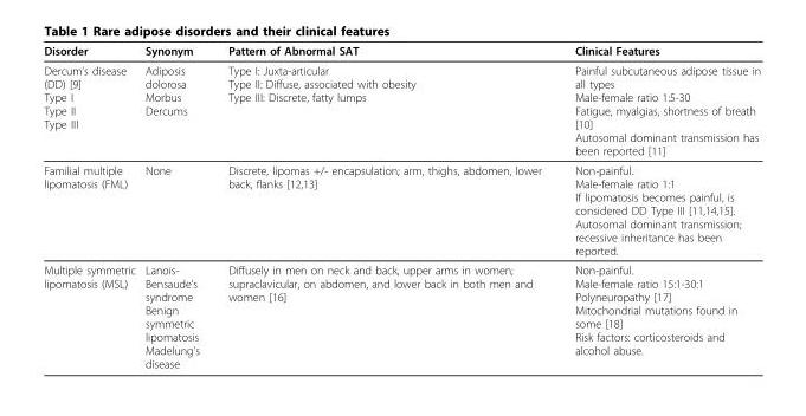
<table><thead><tr><td>Disorder</td><td>Synonym</td><td>Pattern of Abnormal SAT</td><td>Clinical Features</td></tr></thead><tbody><tr><td>Dercum’s disease (DD) [9] Type I Type II Type III</td><td>Adiposis dolorosa Morbus Dercums</td><td>Type I: Juxta-articular Type II: Diffuse, associated with obesity Type III: Discrete, fatty lumps</td><td>Painful subcutaneous adipose tissue in all types Male-female ratio 1:5-30 Fatigue, myalgias, shortness of breath [10] Autosomal dominant transmission has been reported [11]</td></tr><tr><td>Familial multiple lipomatosis (FML)</td><td>None</td><td>Discrete, lipomas +/- encapsulation; arm, thighs, abdomen, lower back, flanks [12,13]</td><td>Non-painful. Male-female ratio 1:1 If lipomatosis becomes painful, is considered DD Type III [11,14,15]. Autosomal dominant transmission; recessive inheritance has been reported.</td></tr><tr><td>Multiple symmetric lipomatosis (MSL)</td><td>Lanois- Bensaude’s syndrome Benign symmetric lipomatosis Madelung’s disease</td><td>Diffusely in men on neck and back, upper arms in women; supraclavicular, on abdomen, and lower back in both men and women [16]</td><td>Non-painful. Male-female ratio 15:1-30:1 Polyneuropathy [17] Mitochondrial mutations found in some [18] Risk factors: corticosteroids and alcohol abuse.</td></tr></tbody></table>